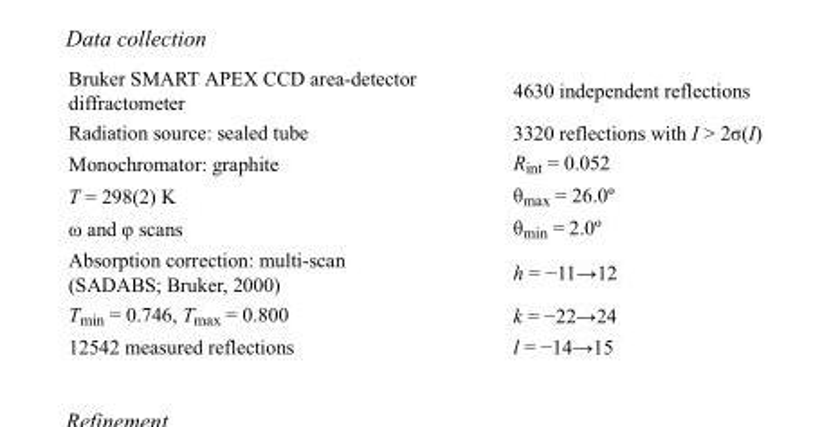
<table><tbody><tr><td>Bruker SMART APEX CCD area-detector diffractometer</td><td>4630 independent reflections</td></tr><tr><td>Radiation source: sealed tube</td><td>3320 reflections with I &gt; 2σ(I)</td></tr><tr><td>Monochromator: graphite</td><td>R<sub>int</sub> = 0.052</td></tr><tr><td>T = 298(2) K</td><td>θ<sub>max</sub> = 26.0º</td></tr><tr><td>ω and φ scans</td><td>θ<sub>min</sub> = 2.0º</td></tr><tr><td>Absorption correction: multi-scan (SADABS; Bruker, 2000)</td><td>h = −11→12</td></tr><tr><td>T<sub>min</sub> = 0.746, T<sub>max</sub> = 0.800</td><td>k = −22→24</td></tr><tr><td>12542 measured reflections</td><td>l = −14→15</td></tr></tbody></table>